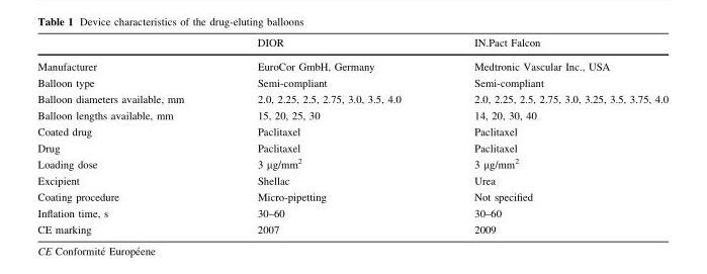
<table><thead><tr><td></td><td>DIOR</td><td>IN.Pact Falcon</td></tr></thead><tbody><tr><td>Manufacturer</td><td>EuroCor GmbH, Germany</td><td>Medtronic Vascular Inc., USA</td></tr><tr><td>Balloon type</td><td>Semi-compliant</td><td>Semi-compliant</td></tr><tr><td>Balloon diameters available, mm</td><td>2.0, 2.25, 2.5, 2.75, 3.0, 3.5, 4.0</td><td>2.0, 2.25, 2.5, 2.75, 3.0, 3.25, 3.5, 3.75, 4.0</td></tr><tr><td>Balloon lengths available, mm</td><td>15, 20, 25, 30</td><td>14, 20, 30, 40</td></tr><tr><td>Coated drug</td><td>Paclitaxel</td><td>Paclitaxel</td></tr><tr><td>Drug</td><td>Paclitaxel</td><td>Paclitaxel</td></tr><tr><td>Loading dose</td><td>3 µg/mm<sup>2</sup></td><td>3 µg/mm<sup>2</sup></td></tr><tr><td>Excipient</td><td>Shellac</td><td>Urea</td></tr><tr><td>Coating procedure</td><td>Micro-pipetting</td><td>Not specified</td></tr><tr><td>Inflation time, s</td><td>30–60</td><td>30–60</td></tr><tr><td>CE marking</td><td>2007</td><td>2009</td></tr></tbody></table>